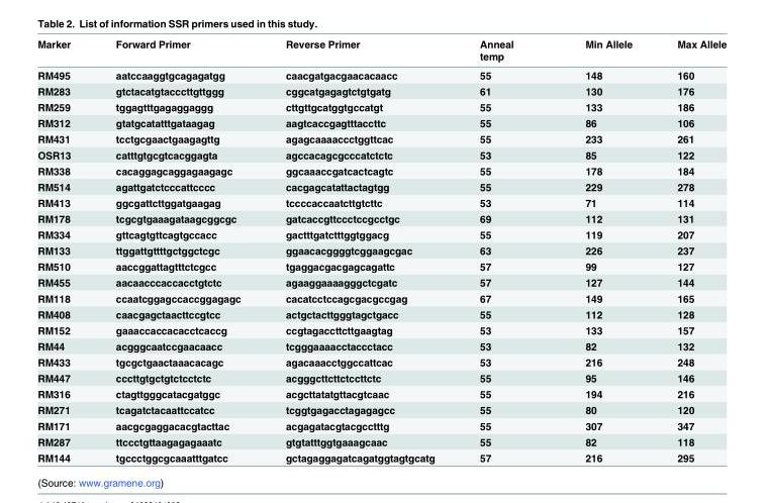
<table><thead><tr><td>Marker</td><td>Forward Primer</td><td>Reverse Primer</td><td>Anneal temp</td><td>Min Allele</td><td>Max Allele</td></tr></thead><tbody><tr><td>RM495</td><td>aatccaaggtgcagagatgg</td><td>caacgatgacgaacacaacc</td><td>55</td><td>148</td><td>160</td></tr><tr><td>RM283</td><td>gtctacatgtacccttgttggg</td><td>cggcatgagagtctgtgatg</td><td>61</td><td>130</td><td>176</td></tr><tr><td>RM259</td><td>tggagtttgagaggaggg</td><td>cttgttgcatggtgccatgt</td><td>55</td><td>133</td><td>186</td></tr><tr><td>RM312</td><td>gtatgcatatttgataagag</td><td>aagtcaccgagtttaccttc</td><td>55</td><td>86</td><td>106</td></tr><tr><td>RM431</td><td>tcctgcgaactgaagagttg</td><td>agagcaaaaccctggttcac</td><td>55</td><td>233</td><td>261</td></tr><tr><td>OSR13</td><td>catttgtgcgtcacggagta</td><td>agccacagcgcccatctctc</td><td>53</td><td>85</td><td>122</td></tr><tr><td>RM338</td><td>cacaggagcaggagaagagc</td><td>ggcaaaccgatcactcagtc</td><td>55</td><td>178</td><td>184</td></tr><tr><td>RM514</td><td>agattgatctcccattcccc</td><td>cacgagcatattactagtgg</td><td>55</td><td>229</td><td>278</td></tr><tr><td>RM413</td><td>ggcgattcttggatgaagag</td><td>tccccaccaatcttgtcttc</td><td>53</td><td>71</td><td>114</td></tr><tr><td>RM178</td><td>tcgcgtgaaagataagcggcgc</td><td>gatcaccgttccctccgcctgc</td><td>69</td><td>112</td><td>131</td></tr><tr><td>RM334</td><td>gttcagtgttcagtgccacc</td><td>gactttgatctttggtggacg</td><td>55</td><td>119</td><td>207</td></tr><tr><td>RM133</td><td>ttggattgttttgctggctcgc</td><td>ggaacacggggtcggaagcgac</td><td>63</td><td>226</td><td>237</td></tr><tr><td>RM510</td><td>aaccggattagtttctcgcc</td><td>tgaggacgacgagcagattc</td><td>57</td><td>99</td><td>127</td></tr><tr><td>RM455</td><td>aacaacccaccacctgtctc</td><td>agaaggaaaagggctcgatc</td><td>57</td><td>127</td><td>144</td></tr><tr><td>RM118</td><td>ccaatcggagccaccggagagc</td><td>cacatcctccagcgacgccgag</td><td>67</td><td>149</td><td>165</td></tr><tr><td>RM408</td><td>caacgagctaacttccgtcc</td><td>actgctacttgggtagctgacc</td><td>55</td><td>112</td><td>128</td></tr><tr><td>RM152</td><td>gaaaccaccacacctcaccg</td><td>ccgtagaccttcttgaagtag</td><td>53</td><td>133</td><td>157</td></tr><tr><td>RM44</td><td>acgggcaatccgaacaacc</td><td>tcgggaaaacctaccctacc</td><td>53</td><td>82</td><td>132</td></tr><tr><td>RM433</td><td>tgcgctgaactaaacacagc</td><td>agacaaacctggccattcac</td><td>53</td><td>216</td><td>248</td></tr><tr><td>RM447</td><td>cccttgtgctgtctcctctc</td><td>acgggcttcttctccttctc</td><td>55</td><td>95</td><td>146</td></tr><tr><td>RM316</td><td>ctagttgggcatacgatggc</td><td>acgcttatatgttacgtcaac</td><td>55</td><td>194</td><td>216</td></tr><tr><td>RM271</td><td>tcagatctacaattccatcc</td><td>tcggtgagacctagagagcc</td><td>55</td><td>80</td><td>120</td></tr><tr><td>RM171</td><td>aacgcgaggacacgtacttac</td><td>acgagatacgtacgcctttg</td><td>55</td><td>307</td><td>347</td></tr><tr><td>RM287</td><td>ttccctgttaagagagaaatc</td><td>gtgtatttggtgaaagcaac</td><td>55</td><td>82</td><td>118</td></tr><tr><td>RM144</td><td>tgccctggcgcaaatttgatcc</td><td>gctagaggagatcagatggtagtgcatg</td><td>57</td><td>216</td><td>295</td></tr></tbody></table>